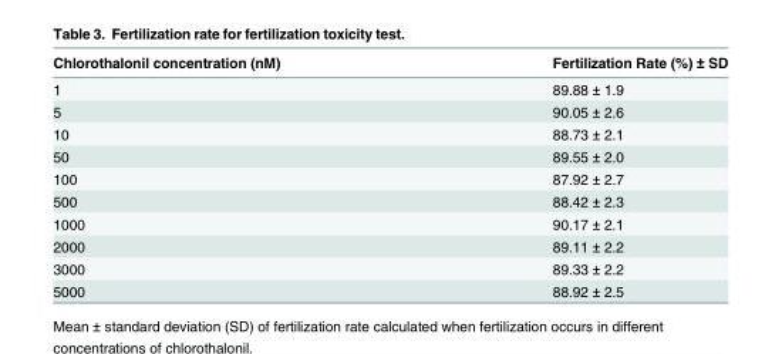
<table><thead><tr><td>Chlorothalonil concentration (nM)</td><td>Fertilization Rate (%) ± SD</td></tr></thead><tbody><tr><td>1</td><td>89.88 ± 1.9</td></tr><tr><td>5</td><td>90.05 ± 2.6</td></tr><tr><td>10</td><td>88.73 ± 2.1</td></tr><tr><td>50</td><td>89.55 ± 2.0</td></tr><tr><td>100</td><td>87.92 ± 2.7</td></tr><tr><td>500</td><td>88.42 ± 2.3</td></tr><tr><td>1000</td><td>90.17 ± 2.1</td></tr><tr><td>2000</td><td>89.11 ± 2.2</td></tr><tr><td>3000</td><td>89.33 ± 2.2</td></tr><tr><td>5000</td><td>88.92 ± 2.5</td></tr></tbody></table>